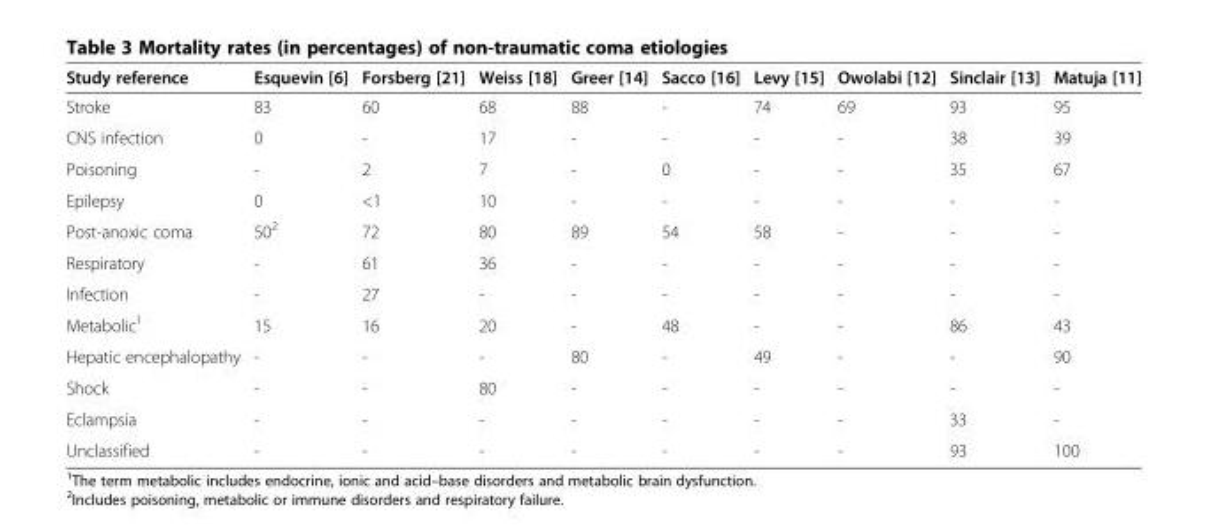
<table><thead><tr><td>Study reference</td><td>Esquevin [6]</td><td>Forsberg [21]</td><td>Weiss [18]</td><td>Greer [14]</td><td>Sacco [16]</td><td>Levy [15]</td><td>Owolabi [12]</td><td>Sinclair [13]</td><td>Matuja [11]</td></tr></thead><tbody><tr><td>Stroke</td><td>83</td><td>60</td><td>68</td><td>88</td><td>-</td><td>74</td><td>69</td><td>93</td><td>95</td></tr><tr><td>CNS infection</td><td>0</td><td>-</td><td>17</td><td>-</td><td>-</td><td>-</td><td>-</td><td>38</td><td>39</td></tr><tr><td>Poisoning</td><td>-</td><td>2</td><td>7</td><td>-</td><td>0</td><td>-</td><td>-</td><td>35</td><td>67</td></tr><tr><td>Epilepsy</td><td>0</td><td>&lt;1</td><td>10</td><td>-</td><td>-</td><td>-</td><td>-</td><td>-</td><td>-</td></tr><tr><td>Post-anoxic coma</td><td>50<sup>2</sup></td><td>72</td><td>80</td><td>89</td><td>54</td><td>58</td><td>-</td><td>-</td><td>-</td></tr><tr><td>Respiratory</td><td>-</td><td>61</td><td>36</td><td>-</td><td>-</td><td>-</td><td>-</td><td>-</td><td>-</td></tr><tr><td>Infection</td><td>-</td><td>27</td><td>-</td><td>-</td><td>-</td><td>-</td><td>-</td><td>-</td><td>-</td></tr><tr><td>Metabolic<sup>1</sup></td><td>15</td><td>16</td><td>20</td><td>-</td><td>48</td><td>-</td><td>-</td><td>86</td><td>43</td></tr><tr><td>Hepatic encephalopathy</td><td>-</td><td>-</td><td>-</td><td>80</td><td>-</td><td>49</td><td>-</td><td>-</td><td>90</td></tr><tr><td>Shock</td><td>-</td><td>-</td><td>80</td><td>-</td><td>-</td><td>-</td><td>-</td><td>-</td><td>-</td></tr><tr><td>Eclampsia</td><td>-</td><td>-</td><td>-</td><td>-</td><td>-</td><td>-</td><td>-</td><td>33</td><td>-</td></tr><tr><td>Unclassified</td><td>-</td><td>-</td><td>-</td><td>-</td><td>-</td><td>-</td><td>-</td><td>93</td><td>100</td></tr></tbody></table>